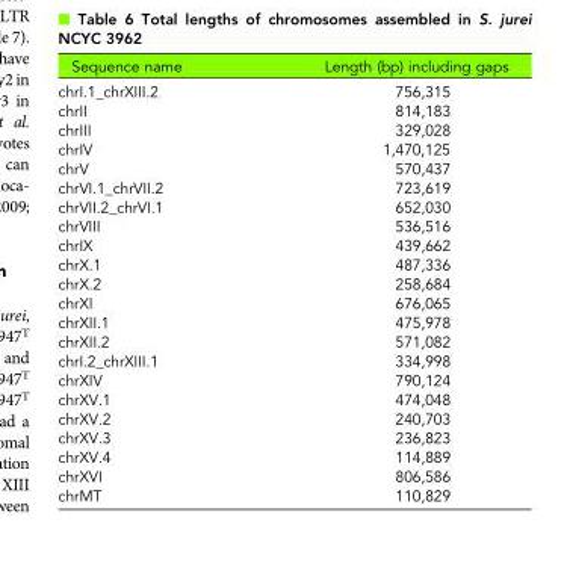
<table><thead><tr><td>Sequence name</td><td>Length (bp) including gaps</td></tr></thead><tbody><tr><td>chrI.1_chrXIII.2</td><td>756,315</td></tr><tr><td>chrII</td><td>814,183</td></tr><tr><td>chrIII</td><td>329,028</td></tr><tr><td>chrIV</td><td>1,470,125</td></tr><tr><td>chrV</td><td>570,437</td></tr><tr><td>chrVI.1_chrVII.2</td><td>723,619</td></tr><tr><td>chrVII.2_chrVI.1</td><td>652,030</td></tr><tr><td>chrVIII</td><td>536,516</td></tr><tr><td>chrIX</td><td>439,662</td></tr><tr><td>chrX.1</td><td>487,336</td></tr><tr><td>chrX.2</td><td>258,684</td></tr><tr><td>chrXI</td><td>676,065</td></tr><tr><td>chrXII.1</td><td>475,978</td></tr><tr><td>chrXII.2</td><td>571,082</td></tr><tr><td>chrI.2_chrXIII.1</td><td>334,998</td></tr><tr><td>chrXIV</td><td>790,124</td></tr><tr><td>chrXV.1</td><td>474,048</td></tr><tr><td>chrXV.2</td><td>240,703</td></tr><tr><td>chrXV.3</td><td>236,823</td></tr><tr><td>chrXV.4</td><td>114,889</td></tr><tr><td>chrXVI</td><td>806,586</td></tr><tr><td>chrMT</td><td>110,829</td></tr></tbody></table>